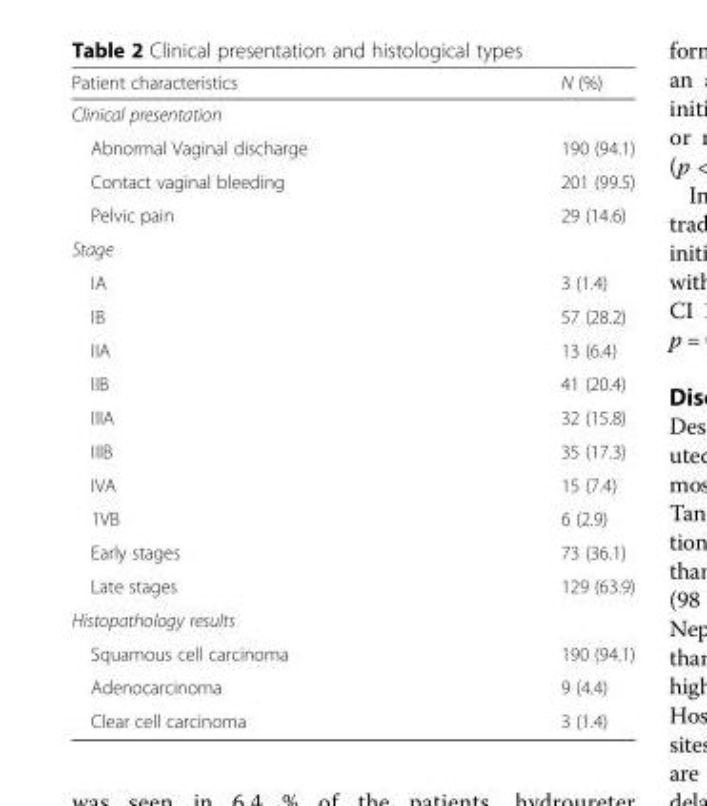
<table><thead><tr><td>Patient characteristics</td><td>N (%)</td></tr></thead><tbody><tr><td colspan="2">Clinical presentation</td></tr><tr><td>Abnormal Vaginal discharge</td><td>190 (94.1)</td></tr><tr><td>Contact vaginal bleeding</td><td>201 (99.5)</td></tr><tr><td>Pelvic pain</td><td>29 (14.6)</td></tr><tr><td colspan="2">Stage</td></tr><tr><td>IA</td><td>3 (1.4)</td></tr><tr><td>IB</td><td>57 (28.2)</td></tr><tr><td>IIA</td><td>13 (6.4)</td></tr><tr><td>IIB</td><td>41 (20.4)</td></tr><tr><td>IIIA</td><td>32 (15.8)</td></tr><tr><td>IIIB</td><td>35 (17.3)</td></tr><tr><td>IVA</td><td>15 (7.4)</td></tr><tr><td>1VB</td><td>6 (2.9)</td></tr><tr><td>Early stages</td><td>73 (36.1)</td></tr><tr><td>Late stages</td><td>129 (63.9)</td></tr><tr><td colspan="2">Histopathology results</td></tr><tr><td>Squamous cell carcinoma</td><td>190 (94.1)</td></tr><tr><td>Adenocarcinoma</td><td>9 (4.4)</td></tr><tr><td>Clear cell carcinoma</td><td>3 (1.4)</td></tr></tbody></table>